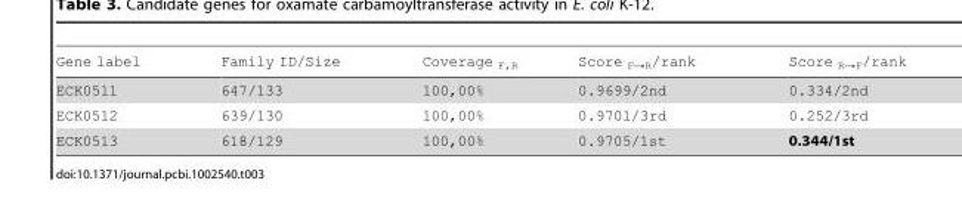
<table><thead><tr><td>Gene label</td><td>Family ID/Size</td><td>Coverage <sub>F,R</sub></td><td>Score <sub>F→R</sub>/rank</td><td>Score <sub>R→F</sub>/rank</td></tr></thead><tbody><tr><td>ECK0511</td><td>647/133</td><td>100,00%</td><td>0.9699/2nd</td><td>0.334/2nd</td></tr><tr><td>ECK0512</td><td>639/130</td><td>100,00%</td><td>0.9701/3rd</td><td>0.252/3rd</td></tr><tr><td>ECK0513</td><td>618/129</td><td>100,00%</td><td>0.9705/1st</td><td>0.344/1st</td></tr></tbody></table>